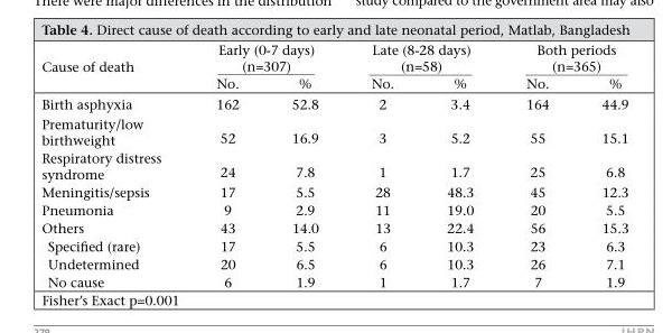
<table><thead><tr><td rowspan="2">Cause of death</td><td colspan="2">Early (0-7 days) (n=307)</td><td colspan="2">Late (8-28 days) (n=58)</td><td colspan="2">Both periods (n=365)</td></tr><tr><td>No.</td><td>%</td><td>No.</td><td>%</td><td>No.</td><td>%</td></tr></thead><tbody><tr><td>Birth asphyxia</td><td>162</td><td>52.8</td><td>2</td><td>3.4</td><td>164</td><td>44.9</td></tr><tr><td>Prematurity/low birthweight</td><td>52</td><td>16.9</td><td>3</td><td>5.2</td><td>55</td><td>15.1</td></tr><tr><td>Respiratory distress syndrome</td><td>24</td><td>7.8</td><td>1</td><td>1.7</td><td>25</td><td>6.8</td></tr><tr><td>Meningitis/sepsis</td><td>17</td><td>5.5</td><td>28</td><td>48.3</td><td>45</td><td>12.3</td></tr><tr><td>Pneumonia</td><td>9</td><td>2.9</td><td>11</td><td>19.0</td><td>20</td><td>5.5</td></tr><tr><td>Others</td><td>43</td><td>14.0</td><td>13</td><td>22.4</td><td>56</td><td>15.3</td></tr><tr><td>Specified (rare)</td><td>17</td><td>5.5</td><td>6</td><td>10.3</td><td>23</td><td>6.3</td></tr><tr><td>Undetermined</td><td>20</td><td>6.5</td><td>6</td><td>10.3</td><td>26</td><td>7.1</td></tr><tr><td>No cause</td><td>6</td><td>1.9</td><td>1</td><td>1.7</td><td>7</td><td>1.9</td></tr></tbody></table>